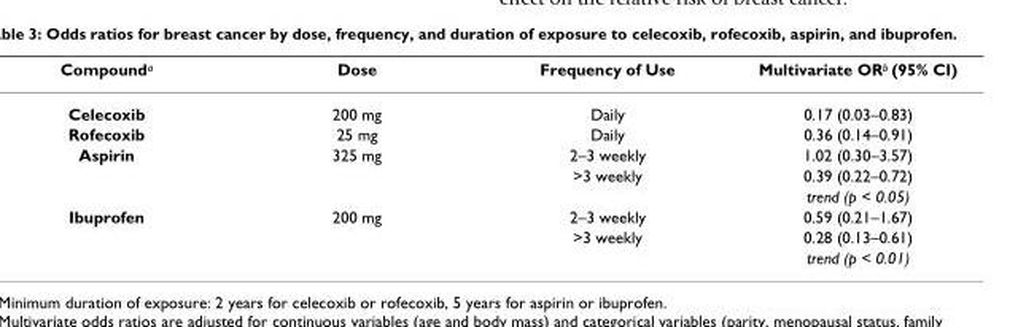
<table><thead><tr><td>Compounda</td><td>Dose</td><td>Frequency of Use</td><td>Multivariate ORb (95% CI)</td></tr></thead><tbody><tr><td>Celecoxib</td><td>200 mg</td><td>Daily</td><td>0.17 (0.03–0.83)</td></tr><tr><td>Rofecoxib</td><td>25 mg</td><td>Daily</td><td>0.36 (0.14–0.91)</td></tr><tr><td rowspan="3">Aspirin</td><td>325 mg</td><td>2–3 weekly</td><td>1.02 (0.30–3.57)</td></tr><tr><td></td><td>&gt;3 weekly</td><td>0.39 (0.22–0.72)</td></tr><tr><td></td><td></td><td>trend (p &lt; 0.05)</td></tr><tr><td rowspan="3">Ibuprofen</td><td>200 mg</td><td>2–3 weekly</td><td>0.59 (0.21–1.67)</td></tr><tr><td></td><td>&gt;3 weekly</td><td>0.28 (0.13–0.61)</td></tr><tr><td></td><td></td><td>trend (p &lt; 0.01)</td></tr></tbody></table>